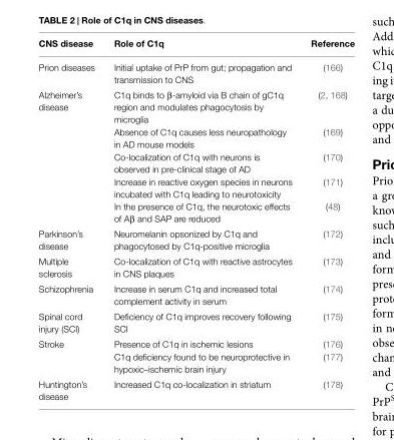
<table><thead><tr><td>CNS disease</td><td>Role of C1q</td><td>Reference</td></tr></thead><tbody><tr><td>Prion diseases</td><td>Initial uptake of PrP from gut; propagation and transmission to CNS</td><td>(166)</td></tr><tr><td rowspan="5">Alzheimer’s disease</td><td>C1q binds to β-amyloid via B chain of gC1q region and modulates phagocytosis by microglia</td><td>(2, 168)</td></tr><tr><td>Absence of C1q causes less neuropathology in AD mouse models</td><td>(169)</td></tr><tr><td>Co-localization of C1q with neurons is observed in pre-clinical stage of AD</td><td>(170)</td></tr><tr><td>Increase in reactive oxygen species in neurons incubated with C1q leading to neurotoxicity</td><td>(171)</td></tr><tr><td>In the presence of C1q, the neurotoxic effects of Aβ and SAP are reduced</td><td>(48)</td></tr><tr><td>Parkinson’s disease</td><td>Neuromelanin opsonized by C1q and phagocytosed by C1q-positive microglia</td><td>(172)</td></tr><tr><td>Multiple sclerosis</td><td>Co-localization of C1q with reactive astrocytes in CNS plaques</td><td>(173)</td></tr><tr><td>Schizophrenia</td><td>Increase in serum C1q and increased total complement activity in serum</td><td>(174)</td></tr><tr><td>Spinal cord injury (SCI)</td><td>Deficiency of C1q improves recovery following SCI</td><td>(175)</td></tr><tr><td rowspan="2">Stroke</td><td>Presence of C1q in ischemic lesions</td><td>(176)</td></tr><tr><td>C1q deficiency found to be neuroprotective in hypoxic–ischemic brain injury</td><td>(177)</td></tr><tr><td>Huntington’s disease</td><td>Increased C1q co-localization in striatum</td><td>(178)</td></tr></tbody></table>